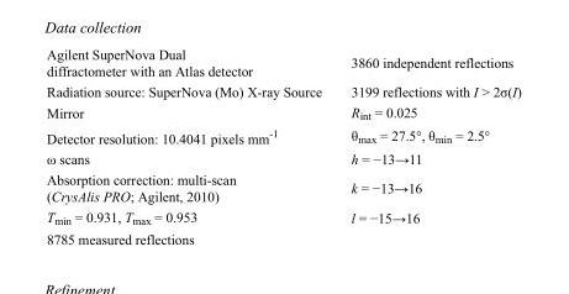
<table><tbody><tr><td>Agilent SuperNova Dual diffractometer with an Atlas detector</td><td>3860 independent reflections</td></tr><tr><td>Radiation source: SuperNova (Mo) X-ray Source</td><td>3199 reflections with I &gt; 2σ(I)</td></tr><tr><td>Mirror</td><td>R<sub>int</sub> = 0.025</td></tr><tr><td>Detector resolution: 10.4041 pixels mm<sup>-1</sup></td><td>θ<sub>max</sub> = 27.5°, θ<sub>min</sub> = 2.5°</td></tr><tr><td>ω scans</td><td>h = −13→11</td></tr><tr><td>Absorption correction: multi-scan (CrysAlis PRO; Agilent, 2010)</td><td>k = −13→16</td></tr><tr><td>T<sub>min</sub> = 0.931, T<sub>max</sub> = 0.953</td><td>l = −15→16</td></tr><tr><td>8785 measured reflections</td><td></td></tr></tbody></table>